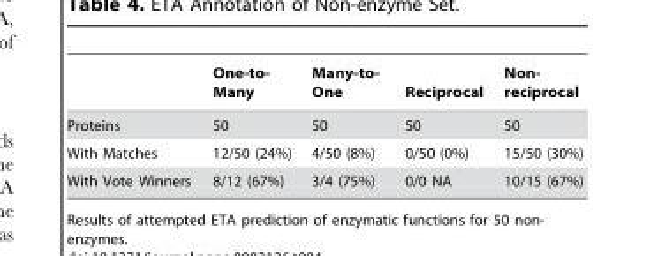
<table><thead><tr><td></td><td>One-to- Many</td><td>Many-to- One</td><td>Reciprocal</td><td>Non- reciprocal</td></tr></thead><tbody><tr><td>Proteins</td><td>50</td><td>50</td><td>50</td><td>50</td></tr><tr><td>With Matches</td><td>12/50 (24%)</td><td>4/50 (8%)</td><td>0/50 (0%)</td><td>15/50 (30%)</td></tr><tr><td>With Vote Winners</td><td>8/12 (67%)</td><td>3/4 (75%)</td><td>0/0 NA</td><td>10/15 (67%)</td></tr></tbody></table>